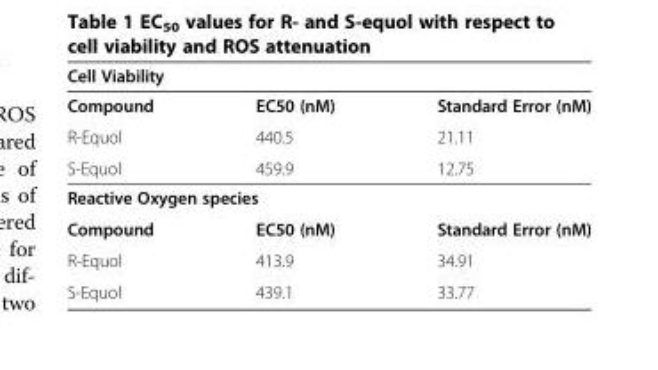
<table><thead><tr><td colspan="3">Cell Viability</td></tr><tr><td>Compound</td><td>EC50 (nM)</td><td>Standard Error (nM)</td></tr></thead><tbody><tr><td>R-Equol</td><td>440.5</td><td>21.11</td></tr><tr><td>S-Equol</td><td>459.9</td><td>12.75</td></tr><tr><td colspan="3">Reactive Oxygen species</td></tr><tr><td>Compound</td><td>EC50 (nM)</td><td>Standard Error (nM)</td></tr><tr><td>R-Equol</td><td>413.9</td><td>34.91</td></tr><tr><td>S-Equol</td><td>439.1</td><td>33.77</td></tr></tbody></table>